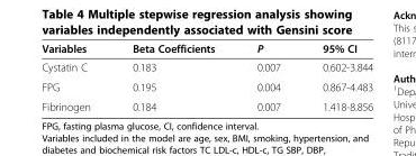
<table><thead><tr><td>Variables</td><td>Beta Coefficients</td><td>P</td><td>95% CI</td></tr></thead><tbody><tr><td>Cystatin C</td><td>0.183</td><td>0.007</td><td>0.602-3.844</td></tr><tr><td>FPG</td><td>0.195</td><td>0.004</td><td>0.867-4.483</td></tr><tr><td>Fibrinogen</td><td>0.184</td><td>0.007</td><td>1.418-8.856</td></tr></tbody></table>